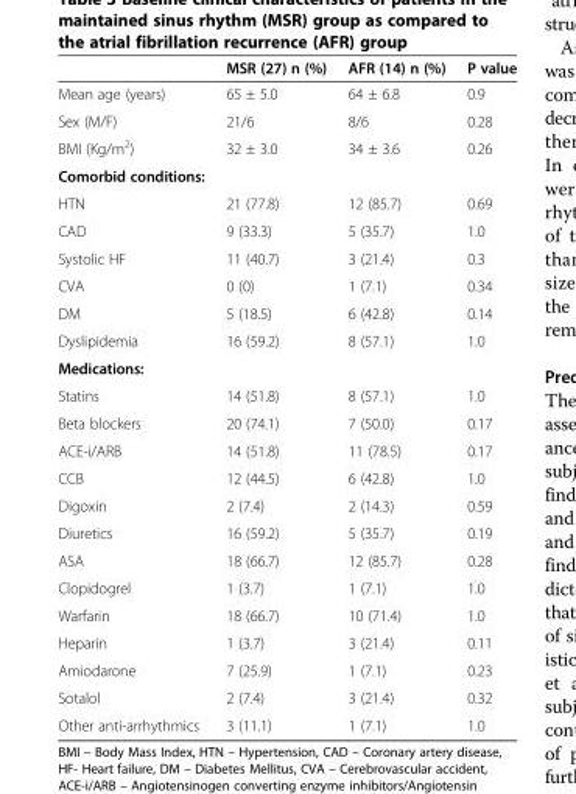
<table><thead><tr><td></td><td>MSR (27) n (%)</td><td>AFR (14) n (%)</td><td>P value</td></tr></thead><tbody><tr><td>Mean age (years)</td><td>65 ± 5.0</td><td>64 ± 6.8</td><td>0.9</td></tr><tr><td>Sex (M/F)</td><td>21/6</td><td>8/6</td><td>0.28</td></tr><tr><td>BMI (Kg/m<sup>2</sup>)</td><td>32 ± 3.0</td><td>34 ± 3.6</td><td>0.26</td></tr><tr><td colspan="4">Comorbid conditions:</td></tr><tr><td>HTN</td><td>21 (77.8)</td><td>12 (85.7)</td><td>0.69</td></tr><tr><td>CAD</td><td>9 (33.3)</td><td>5 (35.7)</td><td>1.0</td></tr><tr><td>Systolic HF</td><td>11 (40.7)</td><td>3 (21.4)</td><td>0.3</td></tr><tr><td>CVA</td><td>0 (0)</td><td>1 (7.1)</td><td>0.34</td></tr><tr><td>DM</td><td>5 (18.5)</td><td>6 (42.8)</td><td>0.14</td></tr><tr><td>Dyslipidemia</td><td>16 (59.2)</td><td>8 (57.1)</td><td>1.0</td></tr><tr><td colspan="4">Medications:</td></tr><tr><td>Statins</td><td>14 (51.8)</td><td>8 (57.1)</td><td>1.0</td></tr><tr><td>Beta blockers</td><td>20 (74.1)</td><td>7 (50.0)</td><td>0.17</td></tr><tr><td>ACE-i/ARB</td><td>14 (51.8)</td><td>11 (78.5)</td><td>0.17</td></tr><tr><td>CCB</td><td>12 (44.5)</td><td>6 (42.8)</td><td>1.0</td></tr><tr><td>Digoxin</td><td>2 (7.4)</td><td>2 (14.3)</td><td>0.59</td></tr><tr><td>Diuretics</td><td>16 (59.2)</td><td>5 (35.7)</td><td>0.19</td></tr><tr><td>ASA</td><td>18 (66.7)</td><td>12 (85.7)</td><td>0.28</td></tr><tr><td>Clopidogrel</td><td>1 (3.7)</td><td>1 (7.1)</td><td>1.0</td></tr><tr><td>Warfarin</td><td>18 (66.7)</td><td>10 (71.4)</td><td>1.0</td></tr><tr><td>Heparin</td><td>1 (3.7)</td><td>3 (21.4)</td><td>0.11</td></tr><tr><td>Amiodarone</td><td>7 (25.9)</td><td>1 (7.1)</td><td>0.23</td></tr><tr><td>Sotalol</td><td>2 (7.4)</td><td>3 (21.4)</td><td>0.32</td></tr><tr><td>Other anti-arrhythmics</td><td>3 (11.1)</td><td>1 (7.1)</td><td>1.0</td></tr></tbody></table>